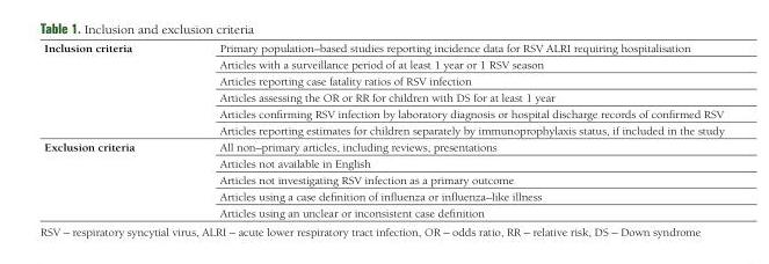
<table><tbody><tr><td rowspan="6">Inclusion criteria</td><td>Primary population–based studies reporting incidence data for RSV ALRI requiring hospitalisation</td></tr><tr><td>Articles with a surveillance period of at least 1 year or 1 RSV season</td></tr><tr><td>Articles reporting case fatality ratios of RSV infection</td></tr><tr><td>Articles assessing the OR or RR for children with DS for at least 1 year</td></tr><tr><td>Articles confirming RSV infection by laboratory diagnosis or hospital discharge records of confirmed RSV</td></tr><tr><td>Articles reporting estimates for children separately by immunoprophylaxis status, if included in the study</td></tr><tr><td rowspan="5">Exclusion criteria</td><td>All non–primary articles, including reviews, presentations</td></tr><tr><td>Articles not available in English</td></tr><tr><td>Articles not investigating RSV infection as a primary outcome</td></tr><tr><td>Articles using a case definition of influenza or influenza–like illness</td></tr><tr><td>Articles using an unclear or inconsistent case definition</td></tr></tbody></table>